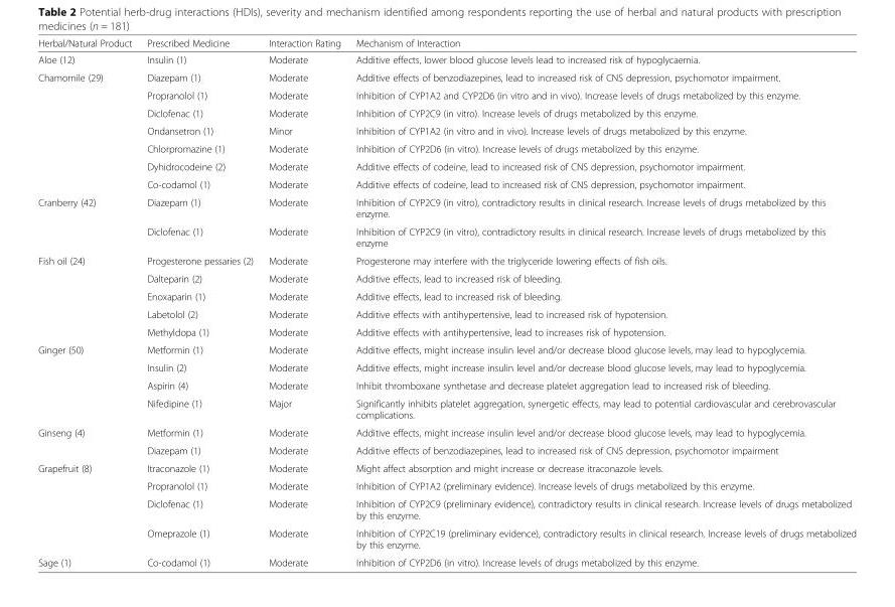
<table><thead><tr><td>Herbal/Natural Product</td><td>Prescribed Medicine</td><td>Interaction Rating</td><td>Mechanism of Interaction</td></tr></thead><tbody><tr><td>Aloe (12)</td><td>Insulin (1)</td><td>Moderate</td><td>Additive effects, lower blood glucose levels lead to increased risk of hypoglycaemia.</td></tr><tr><td rowspan="7">Chamomile (29)</td><td>Diazepam (1)</td><td>Moderate</td><td>Additive effects of benzodiazepines, lead to increased risk of CNS depression, psychomotor impairment.</td></tr><tr><td>Propranolol (1)</td><td>Moderate</td><td>Inhibition of CYP1A2 and CYP2D6 (in vitro and in vivo). Increase levels of drugs metabolized by this enzyme.</td></tr><tr><td>Diclofenac (1)</td><td>Moderate</td><td>Inhibition of CYP2C9 (in vitro). Increase levels of drugs metabolized by this enzyme.</td></tr><tr><td>Ondansetron (1)</td><td>Minor</td><td>Inhibition of CYP1A2 (in vitro and in vivo). Increase levels of drugs metabolized by this enzyme.</td></tr><tr><td>Chlorpromazine (1)</td><td>Moderate</td><td>Inhibition of CYP2D6 (in vitro). Increase levels of drugs metabolized by this enzyme.</td></tr><tr><td>Dyhidrocodeine (2)</td><td>Moderate</td><td>Additive effects of codeine, lead to increased risk of CNS depression, psychomotor impairment.</td></tr><tr><td>Co-codamol (1)</td><td>Moderate</td><td>Additive effects of codeine, lead to increased risk of CNS depression, psychomotor impairment.</td></tr><tr><td rowspan="2">Cranberry (42)</td><td>Diazepam (1)</td><td>Moderate</td><td>Inhibition of CYP2C9 (in vitro), contradictory results in clinical research. Increase levels of drugs metabolized by this enzyme.</td></tr><tr><td>Diclofenac (1)</td><td>Moderate</td><td>Inhibition of CYP2C9 (in vitro), contradictory results in clinical research. Increase levels of drugs metabolized by this enzyme</td></tr><tr><td rowspan="5">Fish oil (24)</td><td>Progesterone pessaries (2)</td><td>Moderate</td><td>Progesterone may interfere with the triglyceride lowering effects of fish oils.</td></tr><tr><td>Dalteparin (2)</td><td>Moderate</td><td>Additive effects, lead to increased risk of bleeding.</td></tr><tr><td>Enoxaparin (1)</td><td>Moderate</td><td>Additive effects, lead to increased risk of bleeding.</td></tr><tr><td>Labetolol (2)</td><td>Moderate</td><td>Additive effects with antihypertensive, lead to increased risk of hypotension.</td></tr><tr><td>Methyldopa (1)</td><td>Moderate</td><td>Additive effects with antihypertensive, lead to increases risk of hypotension.</td></tr><tr><td rowspan="4">Ginger (50)</td><td>Metformin (1)</td><td>Moderate</td><td>Additive effects, might increase insulin level and/or decrease blood glucose levels, may lead to hypoglycemia.</td></tr><tr><td>Insulin (2)</td><td>Moderate</td><td>Additive effects, might increase insulin level and/or decrease blood glucose levels, may lead to hypoglycemia.</td></tr><tr><td>Aspirin (4)</td><td>Moderate</td><td>Inhibit thromboxane synthetase and decrease platelet aggregation lead to increased risk of bleeding.</td></tr><tr><td>Nifedipine (1)</td><td>Major</td><td>Significantly inhibits platelet aggregation, synergetic effects, may lead to potential cardiovascular and cerebrovascular complications.</td></tr><tr><td rowspan="2">Ginseng (4)</td><td>Metformin (1)</td><td>Moderate</td><td>Additive effects, might increase insulin level and/or decrease blood glucose levels, may lead to hypoglycemia.</td></tr><tr><td>Diazepam (1)</td><td>Moderate</td><td>Additive effects of benzodiazepines, lead to increased risk of CNS depression, psychomotor impairment</td></tr><tr><td rowspan="4">Grapefruit (8)</td><td>Itraconazole (1)</td><td>Moderate</td><td>Might affect absorption and might increase or decrease itraconazole levels.</td></tr><tr><td>Propranolol (1)</td><td>Moderate</td><td>Inhibition of CYP1A2 (preliminary evidence). Increase levels of drugs metabolized by this enzyme.</td></tr><tr><td>Diclofenac (1)</td><td>Moderate</td><td>Inhibition of CYP2C9 (preliminary evidence), contradictory results in clinical research. Increase levels of drugs metabolized by this enzyme.</td></tr><tr><td>Omeprazole (1)</td><td>Moderate</td><td>Inhibition of CYP2C19 (preliminary evidence), contradictory results in clinical research. Increase levels of drugs metabolized by this enzyme.</td></tr><tr><td>Sage (1)</td><td>Co-codamol (1)</td><td>Moderate</td><td>Inhibition of CYP2D6 (in vitro). Increase levels of drugs metabolized by this enzyme.</td></tr></tbody></table>